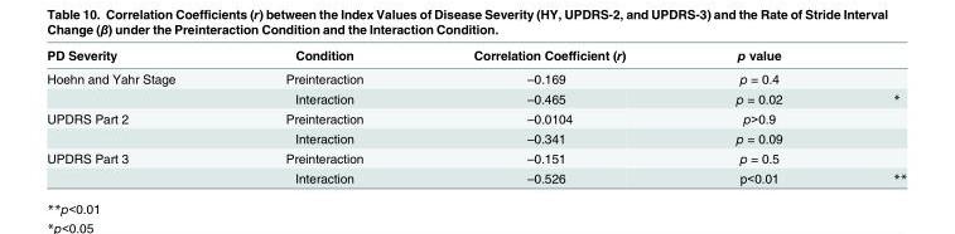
<table><thead><tr><td>PD Severity</td><td>Condition</td><td>Correlation Coefficient (r)</td><td>p value</td><td></td></tr></thead><tbody><tr><td rowspan="2">Hoehn and Yahr Stage</td><td>Preinteraction</td><td>–0.169</td><td>p = 0.4</td><td></td></tr><tr><td>Interaction</td><td>–0.465</td><td>p = 0.02</td><td>*</td></tr><tr><td rowspan="2">UPDRS Part 2</td><td>Preinteraction</td><td>–0.0104</td><td>p&gt;0.9</td><td></td></tr><tr><td>Interaction</td><td>–0.341</td><td>p = 0.09</td><td></td></tr><tr><td rowspan="2">UPDRS Part 3</td><td>Preinteraction</td><td>–0.151</td><td>p = 0.5</td><td></td></tr><tr><td>Interaction</td><td>–0.526</td><td>p&lt;0.01</td><td>**</td></tr></tbody></table>